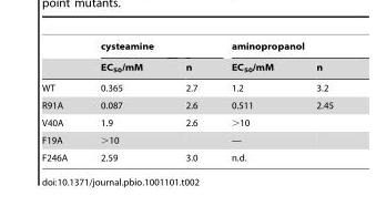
<table><thead><tr><td rowspan="2"></td><td rowspan="2">cysteamine EC<sub>50</sub>/mM</td><td rowspan="2">n</td><td colspan="2">aminopropanol</td></tr><tr><td>EC<sub>50</sub>/mM</td><td>n</td></tr></thead><tbody><tr><td>WT</td><td>0.365</td><td>2.7</td><td>1.2</td><td>3.2</td></tr><tr><td>R91A</td><td>0.087</td><td>2.6</td><td>0.511</td><td>2.45</td></tr><tr><td>V40A</td><td>1.9</td><td>2.6</td><td>&gt;10</td><td></td></tr><tr><td>F19A</td><td>&gt;10</td><td></td><td>—</td><td></td></tr><tr><td>F246A</td><td>2.59</td><td>3.0</td><td>n.d.</td><td></td></tr></tbody></table>